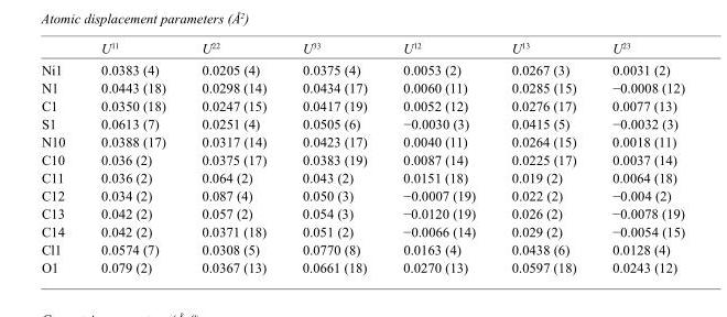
<table><thead><tr><td></td><td>U<sup>11</sup></td><td>U<sup>22</sup></td><td>U<sup>33</sup></td><td>U<sup>12</sup></td><td>U<sup>13</sup></td><td>U<sup>23</sup></td></tr></thead><tbody><tr><td>Ni1</td><td>0.0383 (4)</td><td>0.0205 (4)</td><td>0.0375 (4)</td><td>0.0053 (2)</td><td>0.0267 (3)</td><td>0.0031 (2)</td></tr><tr><td>N1</td><td>0.0443 (18)</td><td>0.0298 (14)</td><td>0.0434 (17)</td><td>0.0060 (11)</td><td>0.0285 (15)</td><td>−0.0008 (12)</td></tr><tr><td>C1</td><td>0.0350 (18)</td><td>0.0247 (15)</td><td>0.0417 (19)</td><td>0.0052 (12)</td><td>0.0276 (17)</td><td>0.0077 (13)</td></tr><tr><td>S1</td><td>0.0613 (7)</td><td>0.0251 (4)</td><td>0.0505 (6)</td><td>−0.0030 (3)</td><td>0.0415 (5)</td><td>−0.0032 (3)</td></tr><tr><td>N10</td><td>0.0388 (17)</td><td>0.0317 (14)</td><td>0.0423 (17)</td><td>0.0040 (11)</td><td>0.0264 (15)</td><td>0.0018 (11)</td></tr><tr><td>C10</td><td>0.036 (2)</td><td>0.0375 (17)</td><td>0.0383 (19)</td><td>0.0087 (14)</td><td>0.0225 (17)</td><td>0.0037 (14)</td></tr><tr><td>C11</td><td>0.036 (2)</td><td>0.064 (2)</td><td>0.043 (2)</td><td>0.0151 (18)</td><td>0.019 (2)</td><td>0.0064 (18)</td></tr><tr><td>C12</td><td>0.034 (2)</td><td>0.087 (4)</td><td>0.050 (3)</td><td>−0.0007 (19)</td><td>0.022 (2)</td><td>−0.004 (2)</td></tr><tr><td>C13</td><td>0.042 (2)</td><td>0.057 (2)</td><td>0.054 (3)</td><td>−0.0120 (19)</td><td>0.026 (2)</td><td>−0.0078 (19)</td></tr><tr><td>C14</td><td>0.042 (2)</td><td>0.0371 (18)</td><td>0.051 (2)</td><td>−0.0066 (14)</td><td>0.029 (2)</td><td>−0.0054 (15)</td></tr><tr><td>Cl1</td><td>0.0574 (7)</td><td>0.0308 (5)</td><td>0.0770 (8)</td><td>0.0163 (4)</td><td>0.0438 (6)</td><td>0.0128 (4)</td></tr><tr><td>O1</td><td>0.079 (2)</td><td>0.0367 (13)</td><td>0.0661 (18)</td><td>0.0270 (13)</td><td>0.0597 (18)</td><td>0.0243 (12)</td></tr></tbody></table>